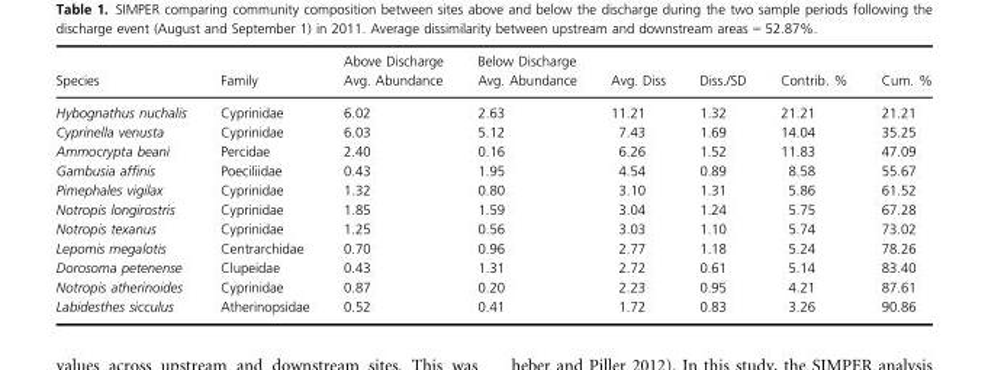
<table><thead><tr><td rowspan="2">Species</td><td rowspan="2">Family</td><td rowspan="2">Above Discharge Avg. Abundance</td><td rowspan="2">Below Discharge Avg. Abundance</td><td rowspan="2">Avg. Diss</td><td rowspan="2">Diss./SD</td><td rowspan="2">Contrib. %</td><td rowspan="2">Cum. %</td></tr><tr></tr></thead><tbody><tr><td>Hybognathus nuchalis</td><td>Cyprinidae</td><td>6.02</td><td>2.63</td><td>11.21</td><td>1.32</td><td>21.21</td><td>21.21</td></tr><tr><td>Cyprinella venusta</td><td>Cyprinidae</td><td>6.03</td><td>5.12</td><td>7.43</td><td>1.69</td><td>14.04</td><td>35.25</td></tr><tr><td>Ammocrypta beani</td><td>Percidae</td><td>2.40</td><td>0.16</td><td>6.26</td><td>1.52</td><td>11.83</td><td>47.09</td></tr><tr><td>Gambusia affinis</td><td>Poeciliidae</td><td>0.43</td><td>1.95</td><td>4.54</td><td>0.89</td><td>8.58</td><td>55.67</td></tr><tr><td>Pimephales vigilax</td><td>Cyprinidae</td><td>1.32</td><td>0.80</td><td>3.10</td><td>1.31</td><td>5.86</td><td>61.52</td></tr><tr><td>Notropis longirostris</td><td>Cyprinidae</td><td>1.85</td><td>1.59</td><td>3.04</td><td>1.24</td><td>5.75</td><td>67.28</td></tr><tr><td>Notropis texanus</td><td>Cyprinidae</td><td>1.25</td><td>0.56</td><td>3.03</td><td>1.10</td><td>5.74</td><td>73.02</td></tr><tr><td>Lepomis megalotis</td><td>Centrarchidae</td><td>0.70</td><td>0.96</td><td>2.77</td><td>1.18</td><td>5.24</td><td>78.26</td></tr><tr><td>Dorosoma petenense</td><td>Clupeidae</td><td>0.43</td><td>1.31</td><td>2.72</td><td>0.61</td><td>5.14</td><td>83.40</td></tr><tr><td>Notropis atherinoides</td><td>Cyprinidae</td><td>0.87</td><td>0.20</td><td>2.23</td><td>0.95</td><td>4.21</td><td>87.61</td></tr><tr><td>Labidesthes sicculus</td><td>Atherinopsidae</td><td>0.52</td><td>0.41</td><td>1.72</td><td>0.83</td><td>3.26</td><td>90.86</td></tr></tbody></table>